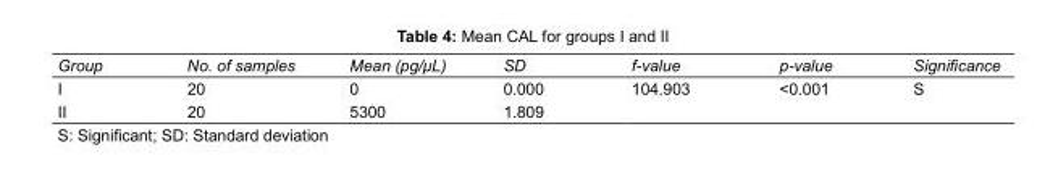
<table><tbody><tr><td>Group</td><td>No. of samples</td><td>Mean (pg/μL)</td><td>SD</td><td>f-value</td><td>p-value</td><td>Significance</td></tr><tr><td>I</td><td>20</td><td>0</td><td>0.000</td><td>104.903</td><td>&lt;0.001</td><td>S</td></tr><tr><td>II</td><td>20</td><td>5300</td><td>1.809</td><td></td><td></td><td></td></tr></tbody></table>